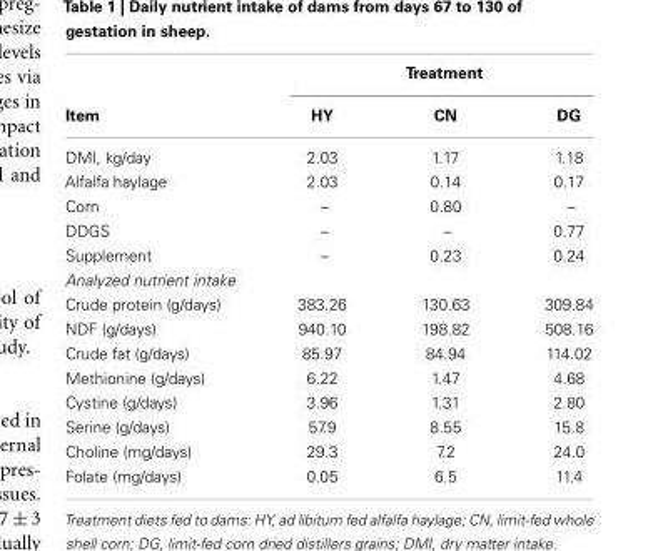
<table><thead><tr><td rowspan="2">Item</td><td colspan="3">Treatment</td></tr><tr><td>HY</td><td>CN</td><td>DG</td></tr></thead><tbody><tr><td>DMI, kg/day</td><td>2.03</td><td>1.17</td><td>1.18</td></tr><tr><td>Alfalfa haylage</td><td>2.03</td><td>0.14</td><td>0.17</td></tr><tr><td>Corn</td><td>–</td><td>0.80</td><td>–</td></tr><tr><td>DDGS</td><td>–</td><td>–</td><td>0.77</td></tr><tr><td>Supplement</td><td>–</td><td>0.23</td><td>0.24</td></tr><tr><td colspan="4">Analyzed nutrient intake</td></tr><tr><td>Crude protein (g/days)</td><td>383.26</td><td>130.63</td><td>309.84</td></tr><tr><td>NDF (g/days)</td><td>940.10</td><td>198.82</td><td>508.16</td></tr><tr><td>Crude fat (g/days)</td><td>85.97</td><td>84.94</td><td>114.02</td></tr><tr><td>Methionine (g/days)</td><td>6.22</td><td>1.47</td><td>4.68</td></tr><tr><td>Cystine (g/days)</td><td>3.96</td><td>1.31</td><td>2.80</td></tr><tr><td>Serine (g/days)</td><td>57.9</td><td>8.55</td><td>15.8</td></tr><tr><td>Choline (mg/days)</td><td>29.3</td><td>7.2</td><td>24.0</td></tr><tr><td>Folate (mg/days)</td><td>0.05</td><td>6.5</td><td>11.4</td></tr></tbody></table>